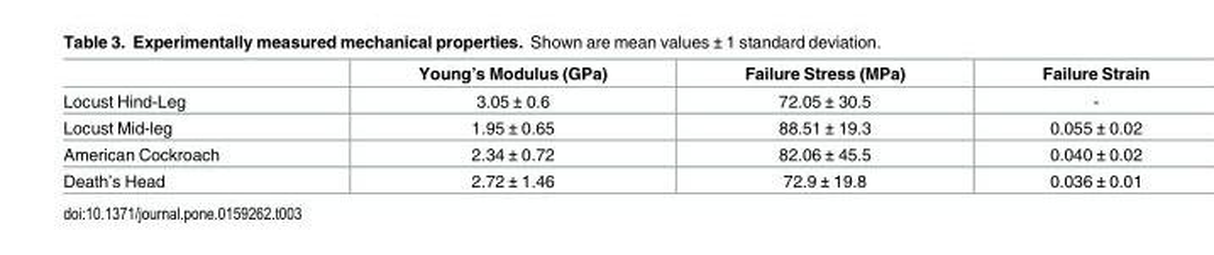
<table><thead><tr><td></td><td>Young’s Modulus (GPa)</td><td>Failure Stress (MPa)</td><td>Failure Strain</td></tr></thead><tbody><tr><td>Locust Hind-Leg</td><td>3.05 ± 0.6</td><td>72.05 ± 30.5</td><td>-</td></tr><tr><td>Locust Mid-leg</td><td>1.95 ± 0.65</td><td>88.51 ± 19.3</td><td>0.055 ± 0.02</td></tr><tr><td>American Cockroach</td><td>2.34 ± 0.72</td><td>82.06 ± 45.5</td><td>0.040 ± 0.02</td></tr><tr><td>Death’s Head</td><td>2.72 ± 1.46</td><td>72.9 ± 19.8</td><td>0.036 ± 0.01</td></tr></tbody></table>